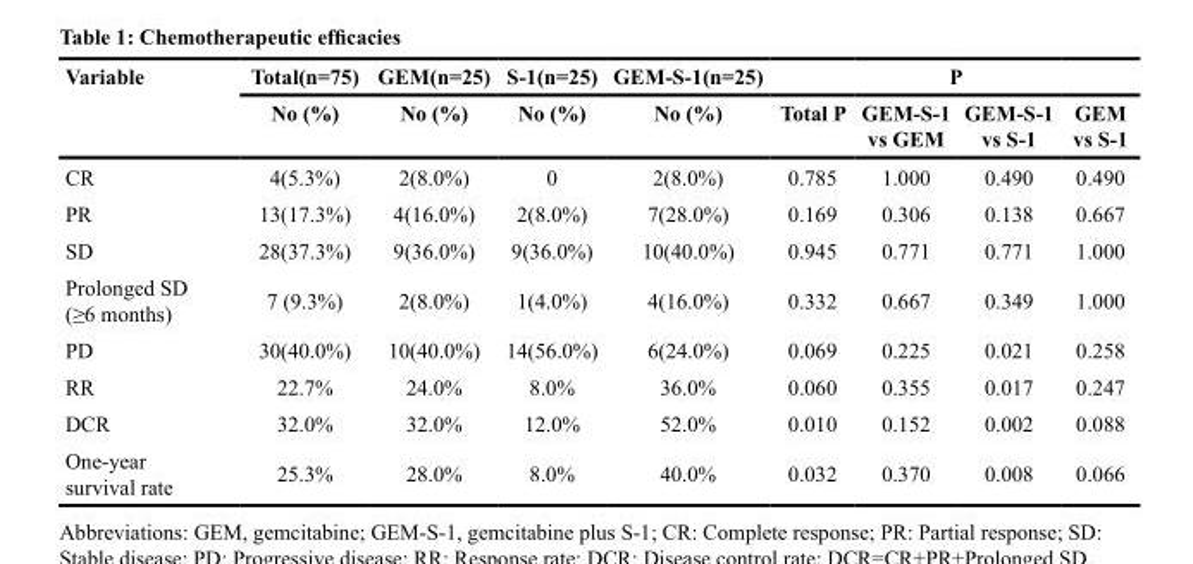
<table><thead><tr><td rowspan="2">Variable</td><td rowspan="2">Total(n=75) No (%)</td><td rowspan="2">GEM(n=25) No (%)</td><td rowspan="2">S-1(n=25) No (%)</td><td rowspan="2">GEM-S-1(n=25) No (%)</td><td colspan="4">P</td></tr><tr><td>Total P</td><td>GEM-S-1 vs GEM</td><td>GEM-S-1 vs S-1</td><td>GEM vs S-1</td></tr></thead><tbody><tr><td>CR</td><td>4(5.3%)</td><td>2(8.0%)</td><td>0</td><td>2(8.0%)</td><td>0.785</td><td>1.000</td><td>0.490</td><td>0.490</td></tr><tr><td>PR</td><td>13(17.3%)</td><td>4(16.0%)</td><td>2(8.0%)</td><td>7(28.0%)</td><td>0.169</td><td>0.306</td><td>0.138</td><td>0.667</td></tr><tr><td>SD</td><td>28(37.3%)</td><td>9(36.0%)</td><td>9(36.0%)</td><td>10(40.0%)</td><td>0.945</td><td>0.771</td><td>0.771</td><td>1.000</td></tr><tr><td>Prolonged SD (≥6 months)</td><td>7 (9.3%)</td><td>2(8.0%)</td><td>1(4.0%)</td><td>4(16.0%)</td><td>0.332</td><td>0.667</td><td>0.349</td><td>1.000</td></tr><tr><td>PD</td><td>30(40.0%)</td><td>10(40.0%)</td><td>14(56.0%)</td><td>6(24.0%)</td><td>0.069</td><td>0.225</td><td>0.021</td><td>0.258</td></tr><tr><td>RR</td><td>22.7%</td><td>24.0%</td><td>8.0%</td><td>36.0%</td><td>0.060</td><td>0.355</td><td>0.017</td><td>0.247</td></tr><tr><td>DCR</td><td>32.0%</td><td>32.0%</td><td>12.0%</td><td>52.0%</td><td>0.010</td><td>0.152</td><td>0.002</td><td>0.088</td></tr><tr><td>One-year survival rate</td><td>25.3%</td><td>28.0%</td><td>8.0%</td><td>40.0%</td><td>0.032</td><td>0.370</td><td>0.008</td><td>0.066</td></tr></tbody></table>